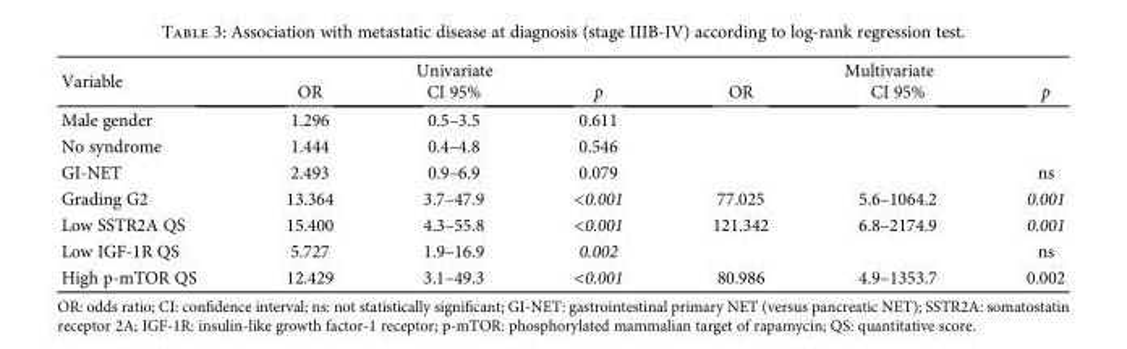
<table><thead><tr><td rowspan="2">Variable</td><td colspan="3">Univariate</td><td colspan="3">Multivariate</td></tr><tr><td>OR</td><td>CI 95%</td><td>p</td><td>OR</td><td>CI 95%</td><td>p</td></tr></thead><tbody><tr><td>Male gender</td><td>1.296</td><td>0.5–3.5</td><td>0.611</td><td></td><td></td><td></td></tr><tr><td>No syndrome</td><td>1.444</td><td>0.4–4.8</td><td>0.546</td><td></td><td></td><td></td></tr><tr><td>GI-NET</td><td>2.493</td><td>0.9–6.9</td><td>0.079</td><td></td><td></td><td>ns</td></tr><tr><td>Grading G2</td><td>13.364</td><td>3.7–47.9</td><td>&lt;0.001</td><td>77.025</td><td>5.6–1064.2</td><td>0.001</td></tr><tr><td>Low SSTR2A QS</td><td>15.400</td><td>4.3–55.8</td><td>&lt;0.001</td><td>121.342</td><td>6.8–2174.9</td><td>0.001</td></tr><tr><td>Low IGF-1R QS</td><td>5.727</td><td>1.9–16.9</td><td>0.002</td><td></td><td></td><td>ns</td></tr><tr><td>High p-mTOR QS</td><td>12.429</td><td>3.1–49.3</td><td>&lt;0.001</td><td>80.986</td><td>4.9–1353.7</td><td>0.002</td></tr></tbody></table>